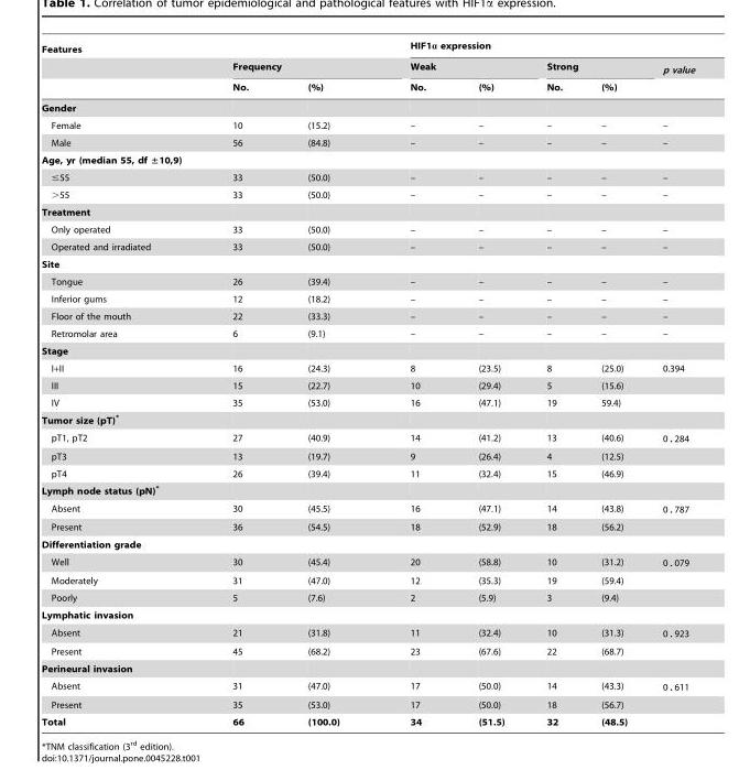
<table><thead><tr><td rowspan="3">Features</td><td></td><td></td><td colspan="5">HIF1α expression</td></tr><tr><td colspan="2">Frequency</td><td colspan="2">Weak</td><td colspan="2">Strong</td><td rowspan="2">p value</td></tr><tr><td>No.</td><td>(%)</td><td>No.</td><td>(%)</td><td>No.</td><td>(%)</td></tr></thead><tbody><tr><td colspan="8">Gender</td></tr><tr><td>Female</td><td>10</td><td>(15.2)</td><td>–</td><td>–</td><td>–</td><td>–</td><td>–</td></tr><tr><td>Male</td><td>56</td><td>(84.8)</td><td>–</td><td>–</td><td>–</td><td>–</td><td>–</td></tr><tr><td colspan="8">Age, yr (median 55, df ±10,9)</td></tr><tr><td>≤55</td><td>33</td><td>(50.0)</td><td>–</td><td>–</td><td>–</td><td>–</td><td>–</td></tr><tr><td>&gt;55</td><td>33</td><td>(50.0)</td><td>–</td><td>–</td><td>–</td><td>–</td><td>–</td></tr><tr><td colspan="8">Treatment</td></tr><tr><td>Only operated</td><td>33</td><td>(50.0)</td><td>–</td><td>–</td><td>–</td><td>–</td><td>–</td></tr><tr><td>Operated and irradiated</td><td>33</td><td>(50.0)</td><td>–</td><td>–</td><td>–</td><td>–</td><td>–</td></tr><tr><td colspan="8">Site</td></tr><tr><td>Tongue</td><td>26</td><td>(39.4)</td><td>–</td><td>–</td><td>–</td><td>–</td><td>–</td></tr><tr><td>Inferior gums</td><td>12</td><td>(18.2)</td><td>–</td><td>–</td><td>–</td><td>–</td><td>–</td></tr><tr><td>Floor of the mouth</td><td>22</td><td>(33.3)</td><td>–</td><td>–</td><td>–</td><td>–</td><td>–</td></tr><tr><td>Retromolar area</td><td>6</td><td>(9.1)</td><td>–</td><td>–</td><td>–</td><td>–</td><td>–</td></tr><tr><td colspan="8">Stage</td></tr><tr><td>I+II</td><td>16</td><td>(24.3)</td><td>8</td><td>(23.5)</td><td>8</td><td>(25.0)</td><td>0.394</td></tr><tr><td>III</td><td>15</td><td>(22.7)</td><td>10</td><td>(29.4)</td><td>5</td><td>(15.6)</td><td></td></tr><tr><td>IV</td><td>35</td><td>(53.0)</td><td>16</td><td>(47.1)</td><td>19</td><td>59.4)</td><td></td></tr><tr><td colspan="8">Tumor size (pT)*</td></tr><tr><td>pT1, pT2</td><td>27</td><td>(40.9)</td><td>14</td><td>(41.2)</td><td>13</td><td>(40.6)</td><td>0.284</td></tr><tr><td>pT3</td><td>13</td><td>(19.7)</td><td>9</td><td>(26.4)</td><td>4</td><td>(12.5)</td><td></td></tr><tr><td>pT4</td><td>26</td><td>(39.4)</td><td>11</td><td>(32.4)</td><td>15</td><td>(46.9)</td><td></td></tr><tr><td colspan="8">Lymph node status (pN)*</td></tr><tr><td>Absent</td><td>30</td><td>(45.5)</td><td>16</td><td>(47.1)</td><td>14</td><td>(43.8)</td><td>0.787</td></tr><tr><td>Present</td><td>36</td><td>(54.5)</td><td>18</td><td>(52.9)</td><td>18</td><td>(56.2)</td><td></td></tr><tr><td colspan="8">Differentiation grade</td></tr><tr><td>Well</td><td>30</td><td>(45.4)</td><td>20</td><td>(58.8)</td><td>10</td><td>(31.2)</td><td>0.079</td></tr><tr><td>Moderately</td><td>31</td><td>(47.0)</td><td>12</td><td>(35.3)</td><td>19</td><td>(59.4)</td><td></td></tr><tr><td>Poorly</td><td>5</td><td>(7.6)</td><td>2</td><td>(5.9)</td><td>3</td><td>(9.4)</td><td></td></tr><tr><td colspan="8">Lymphatic invasion</td></tr><tr><td>Absent</td><td>21</td><td>(31.8)</td><td>11</td><td>(32.4)</td><td>10</td><td>(31.3)</td><td>0.923</td></tr><tr><td>Present</td><td>45</td><td>(68.2)</td><td>23</td><td>(67.6)</td><td>22</td><td>(68.7)</td><td></td></tr><tr><td colspan="8">Perineural invasion</td></tr><tr><td>Absent</td><td>31</td><td>(47.0)</td><td>17</td><td>(50.0)</td><td>14</td><td>(43.3)</td><td>0.611</td></tr><tr><td>Present</td><td>35</td><td>(53.0)</td><td>17</td><td>(50.0)</td><td>18</td><td>(56.7)</td><td></td></tr><tr><td>Total</td><td>66</td><td>(100.0)</td><td>34</td><td>(51.5)</td><td>32</td><td>(48.5)</td><td></td></tr></tbody></table>